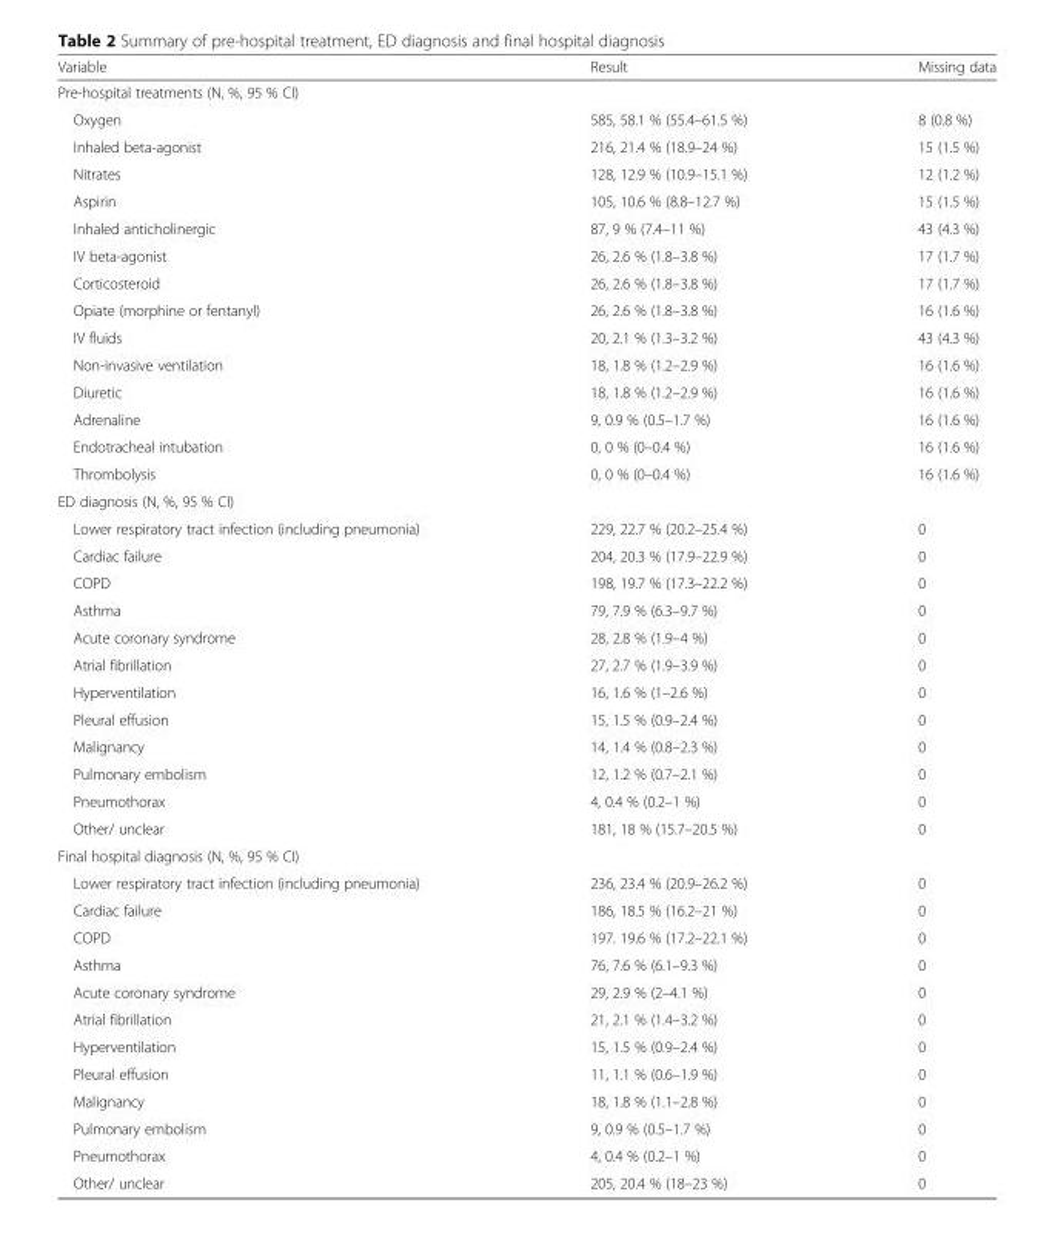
<table><thead><tr><td>Variable</td><td>Result</td><td>Missing data</td></tr></thead><tbody><tr><td colspan="3">Pre-hospital treatments (N, %, 95 % CI)</td></tr><tr><td>Oxygen</td><td>585, 58.1 % (55.4–61.5 %)</td><td>8 (0.8 %)</td></tr><tr><td>Inhaled beta-agonist</td><td>216, 21.4 % (18.9–24 %)</td><td>15 (1.5 %)</td></tr><tr><td>Nitrates</td><td>128, 12.9 % (10.9–15.1 %)</td><td>12 (1.2 %)</td></tr><tr><td>Aspirin</td><td>105, 10.6 % (8.8–12.7 %)</td><td>15 (1.5 %)</td></tr><tr><td>Inhaled anticholinergic</td><td>87, 9 % (7.4–11 %)</td><td>43 (4.3 %)</td></tr><tr><td>IV beta-agonist</td><td>26, 2.6 % (1.8–3.8 %)</td><td>17 (1.7 %)</td></tr><tr><td>Corticosteroid</td><td>26, 2.6 % (1.8–3.8 %)</td><td>17 (1.7 %)</td></tr><tr><td>Opiate (morphine or fentanyl)</td><td>26, 2.6 % (1.8–3.8 %)</td><td>16 (1.6 %)</td></tr><tr><td>IV fluids</td><td>20, 2.1 % (1.3–3.2 %)</td><td>43 (4.3 %)</td></tr><tr><td>Non-invasive ventilation</td><td>18, 1.8 % (1.2–2.9 %)</td><td>16 (1.6 %)</td></tr><tr><td>Diuretic</td><td>18, 1.8 % (1.2–2.9 %)</td><td>16 (1.6 %)</td></tr><tr><td>Adrenaline</td><td>9, 0.9 % (0.5–1.7 %)</td><td>16 (1.6 %)</td></tr><tr><td>Endotracheal intubation</td><td>0, 0 % (0–0.4 %)</td><td>16 (1.6 %)</td></tr><tr><td>Thrombolysis</td><td>0, 0 % (0–0.4 %)</td><td>16 (1.6 %)</td></tr><tr><td colspan="3">ED diagnosis (N, %, 95 % CI)</td></tr><tr><td>Lower respiratory tract infection (including pneumonia)</td><td>229, 22.7 % (20.2–25.4 %)</td><td>0</td></tr><tr><td>Cardiac failure</td><td>204, 20.3 % (17.9–22.9 %)</td><td>0</td></tr><tr><td>COPD</td><td>198, 19.7 % (17.3–22.2 %)</td><td>0</td></tr><tr><td>Asthma</td><td>79, 7.9 % (6.3–9.7 %)</td><td>0</td></tr><tr><td>Acute coronary syndrome</td><td>28, 2.8 % (1.9–4 %)</td><td>0</td></tr><tr><td>Atrial fibrillation</td><td>27, 2.7 % (1.9–3.9 %)</td><td>0</td></tr><tr><td>Hyperventilation</td><td>16, 1.6 % (1–2.6 %)</td><td>0</td></tr><tr><td>Pleural effusion</td><td>15, 1.5 % (0.9–2.4 %)</td><td>0</td></tr><tr><td>Malignancy</td><td>14, 1.4 % (0.8–2.3 %)</td><td>0</td></tr><tr><td>Pulmonary embolism</td><td>12, 1.2 % (0.7–2.1 %)</td><td>0</td></tr><tr><td>Pneumothorax</td><td>4, 0.4 % (0.2–1 %)</td><td>0</td></tr><tr><td>Other/ unclear</td><td>181, 18 % (15.7–20.5 %)</td><td>0</td></tr><tr><td colspan="3">Final hospital diagnosis (N, %, 95 % CI)</td></tr><tr><td>Lower respiratory tract infection (including pneumonia)</td><td>236, 23.4 % (20.9–26.2 %)</td><td>0</td></tr><tr><td>Cardiac failure</td><td>186, 18.5 % (16.2–21 %)</td><td>0</td></tr><tr><td>COPD</td><td>197. 19.6 % (17.2–22.1 %)</td><td>0</td></tr><tr><td>Asthma</td><td>76, 7.6 % (6.1–9.3 %)</td><td>0</td></tr><tr><td>Acute coronary syndrome</td><td>29, 2.9 % (2–4.1 %)</td><td>0</td></tr><tr><td>Atrial fibrillation</td><td>21, 2.1 % (1.4–3.2 %)</td><td>0</td></tr><tr><td>Hyperventilation</td><td>15, 1.5 % (0.9–2.4 %)</td><td>0</td></tr><tr><td>Pleural effusion</td><td>11, 1.1 % (0.6–1.9 %)</td><td>0</td></tr><tr><td>Malignancy</td><td>18, 1.8 % (1.1–2.8 %)</td><td>0</td></tr><tr><td>Pulmonary embolism</td><td>9, 0.9 % (0.5–1.7 %)</td><td>0</td></tr><tr><td>Pneumothorax</td><td>4, 0.4 % (0.2–1 %)</td><td>0</td></tr><tr><td>Other/ unclear</td><td>205, 20.4 % (18–23 %)</td><td>0</td></tr></tbody></table>